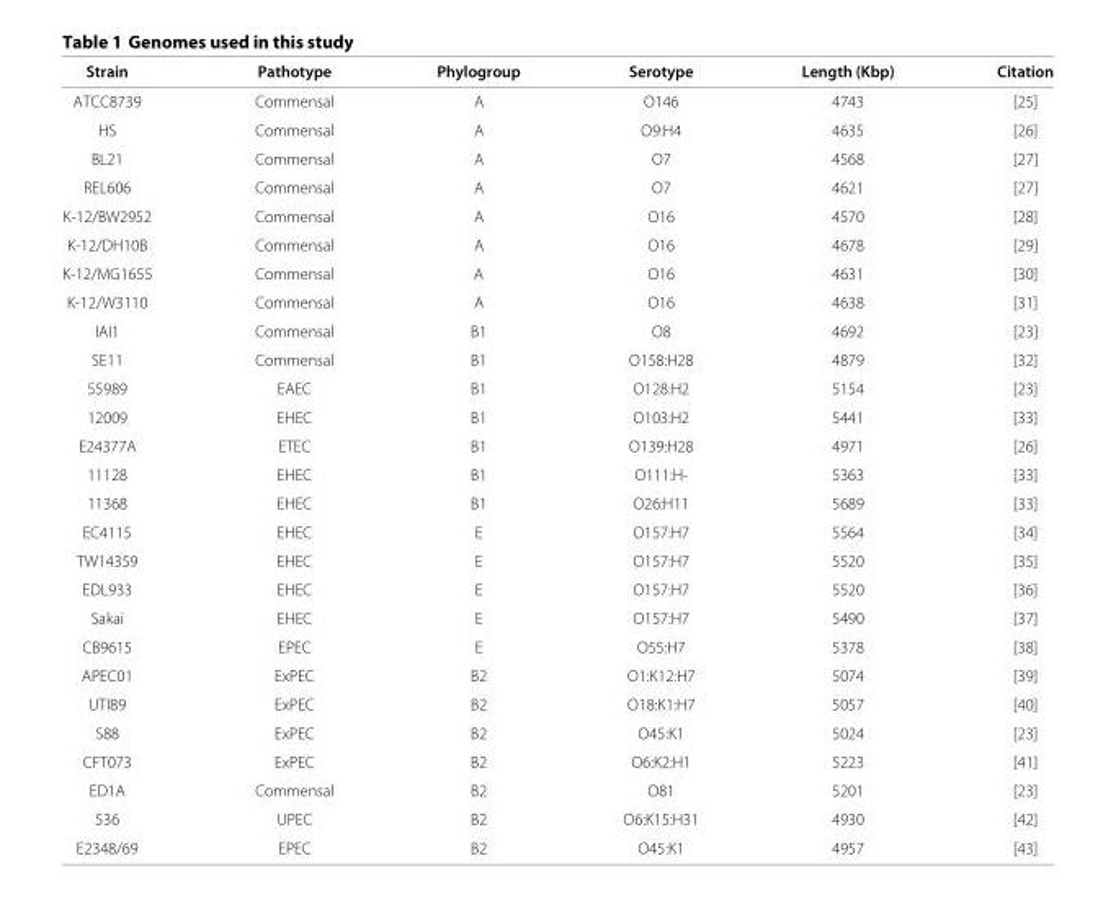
<table><thead><tr><td>Strain</td><td>Pathotype</td><td>Phylogroup</td><td>Serotype</td><td>Length (Kbp)</td><td>Citation</td></tr></thead><tbody><tr><td>ATCC8739</td><td>Commensal</td><td>A</td><td>O146</td><td>4743</td><td>[25]</td></tr><tr><td>HS</td><td>Commensal</td><td>A</td><td>O9:H4</td><td>4635</td><td>[26]</td></tr><tr><td>BL21</td><td>Commensal</td><td>A</td><td>O7</td><td>4568</td><td>[27]</td></tr><tr><td>REL606</td><td>Commensal</td><td>A</td><td>O7</td><td>4621</td><td>[27]</td></tr><tr><td>K-12/BW2952</td><td>Commensal</td><td>A</td><td>O16</td><td>4570</td><td>[28]</td></tr><tr><td>K-12/DH10B</td><td>Commensal</td><td>A</td><td>O16</td><td>4678</td><td>[29]</td></tr><tr><td>K-12/MG1655</td><td>Commensal</td><td>A</td><td>O16</td><td>4631</td><td>[30]</td></tr><tr><td>K-12/W3110</td><td>Commensal</td><td>A</td><td>O16</td><td>4638</td><td>[31]</td></tr><tr><td>IAI1</td><td>Commensal</td><td>B1</td><td>O8</td><td>4692</td><td>[23]</td></tr><tr><td>SE11</td><td>Commensal</td><td>B1</td><td>O158:H28</td><td>4879</td><td>[32]</td></tr><tr><td>55989</td><td>EAEC</td><td>B1</td><td>O128:H2</td><td>5154</td><td>[23]</td></tr><tr><td>12009</td><td>EHEC</td><td>B1</td><td>O103:H2</td><td>5441</td><td>[33]</td></tr><tr><td>E24377A</td><td>ETEC</td><td>B1</td><td>O139:H28</td><td>4971</td><td>[26]</td></tr><tr><td>11128</td><td>EHEC</td><td>B1</td><td>O111:H-</td><td>5363</td><td>[33]</td></tr><tr><td>11368</td><td>EHEC</td><td>B1</td><td>O26:H11</td><td>5689</td><td>[33]</td></tr><tr><td>EC4115</td><td>EHEC</td><td>E</td><td>O157:H7</td><td>5564</td><td>[34]</td></tr><tr><td>TW14359</td><td>EHEC</td><td>E</td><td>O157:H7</td><td>5520</td><td>[35]</td></tr><tr><td>EDL933</td><td>EHEC</td><td>E</td><td>O157:H7</td><td>5520</td><td>[36]</td></tr><tr><td>Sakai</td><td>EHEC</td><td>E</td><td>O157:H7</td><td>5490</td><td>[37]</td></tr><tr><td>CB9615</td><td>EPEC</td><td>E</td><td>O55:H7</td><td>5378</td><td>[38]</td></tr><tr><td>APEC01</td><td>ExPEC</td><td>B2</td><td>O1:K12:H7</td><td>5074</td><td>[39]</td></tr><tr><td>UTI89</td><td>ExPEC</td><td>B2</td><td>O18:K1:H7</td><td>5057</td><td>[40]</td></tr><tr><td>S88</td><td>ExPEC</td><td>B2</td><td>O45:K1</td><td>5024</td><td>[23]</td></tr><tr><td>CFT073</td><td>ExPEC</td><td>B2</td><td>O6:K2:H1</td><td>5223</td><td>[41]</td></tr><tr><td>ED1A</td><td>Commensal</td><td>B2</td><td>O81</td><td>5201</td><td>[23]</td></tr><tr><td>536</td><td>UPEC</td><td>B2</td><td>O6:K15:H31</td><td>4930</td><td>[42]</td></tr><tr><td>E2348/69</td><td>EPEC</td><td>B2</td><td>O45:K1</td><td>4957</td><td>[43]</td></tr></tbody></table>